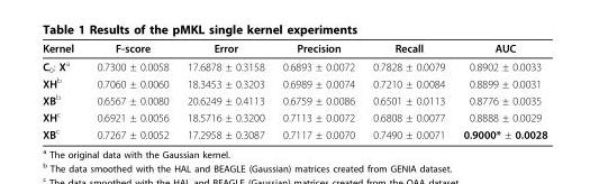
<table><thead><tr><td>Kernel</td><td>F-score</td><td>Error</td><td>Precision</td><td>Recall</td><td>AUC</td></tr></thead><tbody><tr><td>C<sub>0</sub>: X<sup>a</sup></td><td>0.7300 ± 0.0058</td><td>17.6878 ± 0.3158</td><td>0.6893 ± 0.0072</td><td>0.7828 ± 0.0079</td><td>0.8902 ± 0.0033</td></tr><tr><td>XH<sup>b</sup></td><td>0.7060 ± 0.0060</td><td>18.3453 ± 0.3203</td><td>0.6989 ± 0.0074</td><td>0.7210 ± 0.0084</td><td>0.8899 ± 0.0031</td></tr><tr><td>XB<sup>b</sup></td><td>0.6567 ± 0.0080</td><td>20.6249 ± 0.4113</td><td>0.6759 ± 0.0086</td><td>0.6501 ± 0.0113</td><td>0.8776 ± 0.0035</td></tr><tr><td>XH<sup>c</sup></td><td>0.6921 ± 0.0056</td><td>18.5716 ± 0.3200</td><td>0.7113 ± 0.0072</td><td>0.6808 ± 0.0077</td><td>0.8888 ± 0.0029</td></tr><tr><td>XB<sup>c</sup></td><td>0.7267 ± 0.0052</td><td>17.2958 ± 0.3087</td><td>0.7117 ± 0.0070</td><td>0.7490 ± 0.0071</td><td>0.9000* ± 0.0028</td></tr></tbody></table>